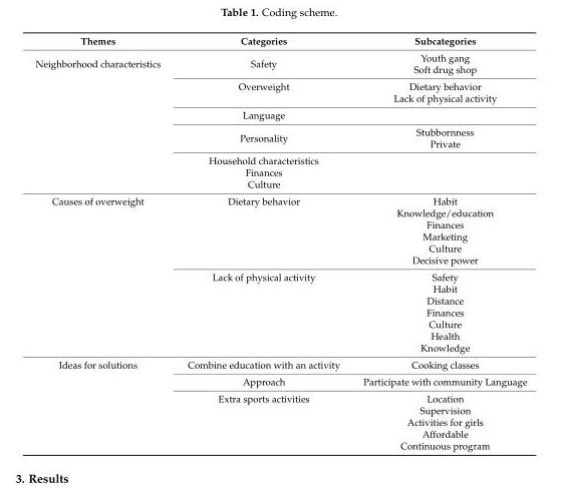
<table><thead><tr><td>Themes</td><td>Categories</td><td>Subcategories</td></tr></thead><tbody><tr><td rowspan="8">Neighborhood characteristics</td><td>Safety</td><td>Youth gang Soft drug shop</td></tr><tr><td>Overweight</td><td>Dietary behavior</td></tr><tr><td></td><td>Lack of physical activity</td></tr><tr><td>Language</td><td></td></tr><tr><td>Personality</td><td>Stubbornness Private</td></tr><tr><td>Household characteristics</td><td></td></tr><tr><td>Finances</td><td></td></tr><tr><td>Culture</td><td></td></tr><tr><td rowspan="12">Causes of overweight</td><td>Dietary behavior</td><td>Habit</td></tr><tr><td></td><td>Knowledge/education</td></tr><tr><td></td><td>Finances</td></tr><tr><td></td><td>Marketing</td></tr><tr><td></td><td>Culture</td></tr><tr><td></td><td>Decisive power</td></tr><tr><td>Lack of physical activity</td><td>Safety</td></tr><tr><td></td><td>Habit</td></tr><tr><td></td><td>Distance</td></tr><tr><td></td><td>Finances</td></tr><tr><td></td><td>Culture</td></tr><tr><td></td><td>Health Knowledge</td></tr><tr><td rowspan="7">Ideas for solutions</td><td>Combine education with an activity</td><td>Cooking classes</td></tr><tr><td>Approach</td><td>Participate with community Language</td></tr><tr><td>Extra sports activities</td><td>Location</td></tr><tr><td></td><td>Supervision</td></tr><tr><td></td><td>Activities for girls</td></tr><tr><td></td><td>Affordable</td></tr><tr><td></td><td>Continuous program</td></tr></tbody></table>